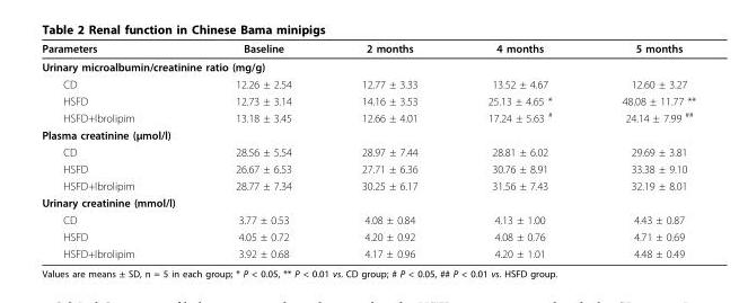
<table><thead><tr><td>Parameters</td><td>Baseline</td><td>2 months</td><td>4 months</td><td>5 months</td></tr></thead><tbody><tr><td colspan="5">Urinary microalbumin/creatinine ratio (mg/g)</td></tr><tr><td>CD</td><td>12.26 ± 2.54</td><td>12.77 ± 3.33</td><td>13.52 ± 4.67</td><td>12.60 ± 3.27</td></tr><tr><td>HSFD</td><td>12.73 ± 3.14</td><td>14.16 ± 3.53</td><td>25.13 ± 4.65 *</td><td>48.08 ± 11.77 **</td></tr><tr><td>HSFD+Ibrolipim</td><td>13.18 ± 3.45</td><td>12.66 ± 4.01</td><td>17.24 ± 5.63 <sup>#</sup></td><td>24.14 ± 7.99 <sup>##</sup></td></tr><tr><td colspan="5">Plasma creatinine (μmol/l)</td></tr><tr><td>CD</td><td>28.56 ± 5.54</td><td>28.97 ± 7.44</td><td>28.81 ± 6.02</td><td>29.69 ± 3.81</td></tr><tr><td>HSFD</td><td>26.67 ± 6.53</td><td>27.71 ± 6.36</td><td>30.76 ± 8.91</td><td>33.38 ± 9.10</td></tr><tr><td>HSFD+Ibrolipim</td><td>28.77 ± 7.34</td><td>30.25 ± 6.17</td><td>31.56 ± 7.43</td><td>32.19 ± 8.01</td></tr><tr><td colspan="5">Urinary creatinine (mmol/l)</td></tr><tr><td>CD</td><td>3.77 ± 0.53</td><td>4.08 ± 0.84</td><td>4.13 ± 1.00</td><td>4.43 ± 0.87</td></tr><tr><td>HSFD</td><td>4.05 ± 0.72</td><td>4.20 ± 0.92</td><td>4.08 ± 0.76</td><td>4.71 ± 0.69</td></tr><tr><td>HSFD+Ibrolipim</td><td>3.92 ± 0.68</td><td>4.17 ± 0.96</td><td>4.20 ± 1.01</td><td>4.48 ± 0.49</td></tr></tbody></table>